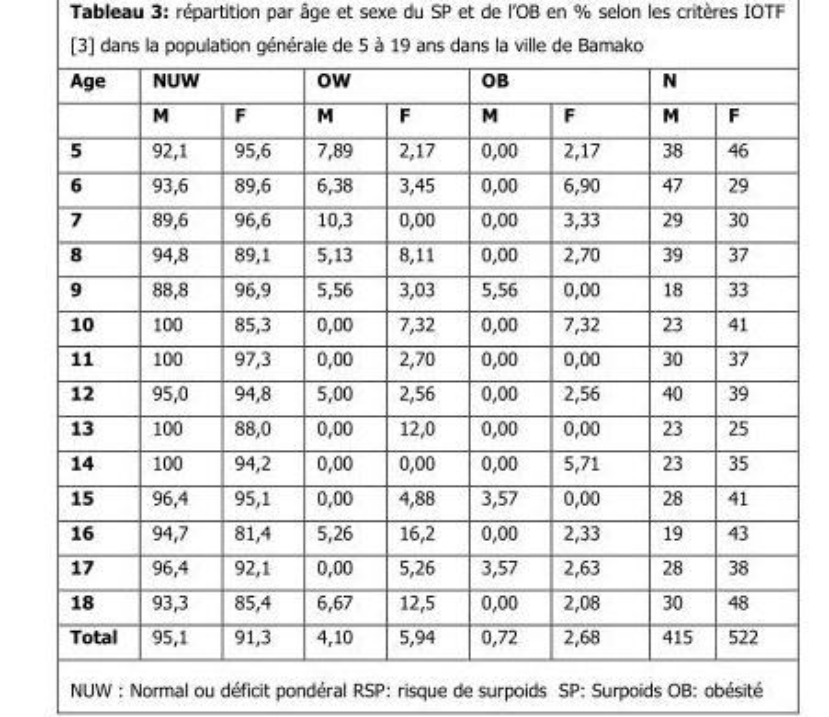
<table><thead><tr><td rowspan="2">Age</td><td colspan="2">NUW</td><td colspan="2">OW</td><td colspan="2">OB</td><td colspan="2">N</td></tr><tr><td>M</td><td>F</td><td>M</td><td>F</td><td>M</td><td>F</td><td>M</td><td>F</td></tr></thead><tbody><tr><td>5</td><td>92,1</td><td>95,6</td><td>7,89</td><td>2,17</td><td>0,00</td><td>2,17</td><td>38</td><td>46</td></tr><tr><td>6</td><td>93,6</td><td>89,6</td><td>6,38</td><td>3,45</td><td>0,00</td><td>6,90</td><td>47</td><td>29</td></tr><tr><td>7</td><td>89,6</td><td>96,6</td><td>10,3</td><td>0,00</td><td>0,00</td><td>3,33</td><td>29</td><td>30</td></tr><tr><td>8</td><td>94,8</td><td>89,1</td><td>5,13</td><td>8,11</td><td>0,00</td><td>2,70</td><td>39</td><td>37</td></tr><tr><td>9</td><td>88,8</td><td>96,9</td><td>5,56</td><td>3,03</td><td>5,56</td><td>0,00</td><td>18</td><td>33</td></tr><tr><td>10</td><td>100</td><td>85,3</td><td>0,00</td><td>7,32</td><td>0,00</td><td>7,32</td><td>23</td><td>41</td></tr><tr><td>11</td><td>100</td><td>97,3</td><td>0,00</td><td>2,70</td><td>0,00</td><td>0,00</td><td>30</td><td>37</td></tr><tr><td>12</td><td>95,0</td><td>94,8</td><td>5,00</td><td>2,56</td><td>0,00</td><td>2,56</td><td>40</td><td>39</td></tr><tr><td>13</td><td>100</td><td>88,0</td><td>0,00</td><td>12,0</td><td>0,00</td><td>0,00</td><td>23</td><td>25</td></tr><tr><td>14</td><td>100</td><td>94,2</td><td>0,00</td><td>0,00</td><td>0,00</td><td>5,71</td><td>23</td><td>35</td></tr><tr><td>15</td><td>96,4</td><td>95,1</td><td>0,00</td><td>4,88</td><td>3,57</td><td>0,00</td><td>28</td><td>41</td></tr><tr><td>16</td><td>94,7</td><td>81,4</td><td>5,26</td><td>16,2</td><td>0,00</td><td>2,33</td><td>19</td><td>43</td></tr><tr><td>17</td><td>96,4</td><td>92,1</td><td>0,00</td><td>5,26</td><td>3,57</td><td>2,63</td><td>28</td><td>38</td></tr><tr><td>18</td><td>93,3</td><td>85,4</td><td>6,67</td><td>12,5</td><td>0,00</td><td>2,08</td><td>30</td><td>48</td></tr><tr><td>Total</td><td>95,1</td><td>91,3</td><td>4,10</td><td>5,94</td><td>0,72</td><td>2,68</td><td>415</td><td>522</td></tr></tbody></table>